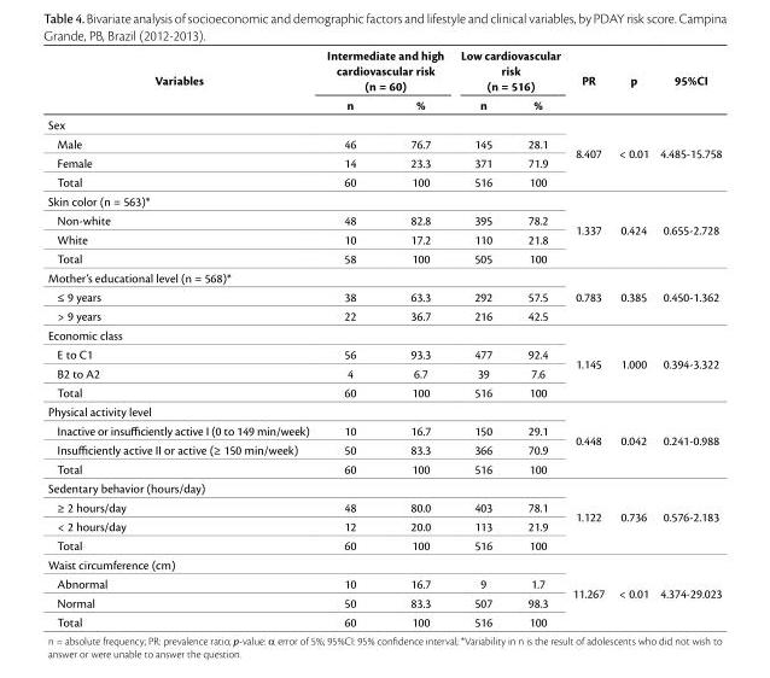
<table><thead><tr><td rowspan="2">Variables</td><td colspan="2">Intermediate and high cardiovascular risk (n = 60)</td><td colspan="2">Low cardiovascular risk (n = 516)</td><td rowspan="2">PR</td><td rowspan="2">p</td><td rowspan="2">95%CI</td></tr><tr><td>n</td><td>%</td><td>n</td><td>%</td></tr></thead><tbody><tr><td colspan="5">Sex</td><td rowspan="4">8.407</td><td rowspan="4">&lt; 0.01</td><td rowspan="4">4.485-15.758</td></tr><tr><td>Male</td><td>46</td><td>76.7</td><td>145</td><td>28.1</td></tr><tr><td>Female</td><td>14</td><td>23.3</td><td>371</td><td>71.9</td></tr><tr><td>Total</td><td>60</td><td>100</td><td>516</td><td>100</td></tr><tr><td colspan="5">Skin color (n = 563)*</td><td rowspan="4">1.337</td><td rowspan="4">0.424</td><td rowspan="4">0.655-2.728</td></tr><tr><td>Non-white</td><td>48</td><td>82.8</td><td>395</td><td>78.2</td></tr><tr><td>White</td><td>10</td><td>17.2</td><td>110</td><td>21.8</td></tr><tr><td>Total</td><td>58</td><td>100</td><td>505</td><td>100</td></tr><tr><td colspan="5">Mother’s educational level (n = 568)*</td><td rowspan="3">0.783</td><td rowspan="3">0.385</td><td rowspan="3">0.450-1.362</td></tr><tr><td>≤ 9 years</td><td>38</td><td>63.3</td><td>292</td><td>57.5</td></tr><tr><td>&gt; 9 years</td><td>22</td><td>36.7</td><td>216</td><td>42.5</td></tr><tr><td colspan="5">Economic class</td><td rowspan="4">1.145</td><td rowspan="4">1.000</td><td rowspan="4">0.394-3.322</td></tr><tr><td>E to C1</td><td>56</td><td>93.3</td><td>477</td><td>92.4</td></tr><tr><td>B2 to A2</td><td>4</td><td>6.7</td><td>39</td><td>7.6</td></tr><tr><td>Total</td><td>60</td><td>100</td><td>516</td><td>100</td></tr><tr><td colspan="5">Physical activity level</td><td rowspan="4">0.448</td><td rowspan="4">0.042</td><td rowspan="4">0.241-0.988</td></tr><tr><td>Inactive or insufficiently active I (0 to 149 min/week)</td><td>10</td><td>16.7</td><td>150</td><td>29.1</td></tr><tr><td>Insufficiently active II or active (≥ 150 min/week)</td><td>50</td><td>83.3</td><td>366</td><td>70.9</td></tr><tr><td>Total</td><td>60</td><td>100</td><td>516</td><td>100</td></tr><tr><td colspan="5">Sedentary behavior (hours/day)</td><td rowspan="4">1.122</td><td rowspan="4">0.736</td><td rowspan="4">0.576-2.183</td></tr><tr><td>≥ 2 hours/day</td><td>48</td><td>80.0</td><td>403</td><td>78.1</td></tr><tr><td>&lt; 2 hours/day</td><td>12</td><td>20.0</td><td>113</td><td>21.9</td></tr><tr><td>Total</td><td>60</td><td>100</td><td>516</td><td>100</td></tr><tr><td colspan="5">Waist circumference (cm)</td><td rowspan="4">11.267</td><td rowspan="4">&lt; 0.01</td><td rowspan="4">4.374-29.023</td></tr><tr><td>Abnormal</td><td>10</td><td>16.7</td><td>9</td><td>1.7</td></tr><tr><td>Normal</td><td>50</td><td>83.3</td><td>507</td><td>98.3</td></tr><tr><td>Total</td><td>60</td><td>100</td><td>516</td><td>100</td></tr></tbody></table>